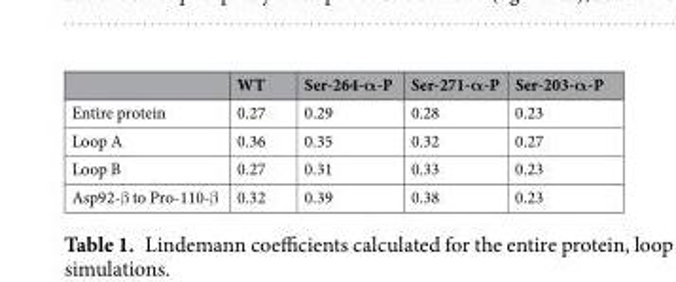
<table><thead><tr><td></td><td>WT</td><td>Ser-264-α-P</td><td>Ser-271-α-P</td><td>Ser-203-α-P</td></tr></thead><tbody><tr><td>Entire protein</td><td>0.27</td><td>0.29</td><td>0.28</td><td>0.23</td></tr><tr><td>Loop A</td><td>0.36</td><td>0.35</td><td>0.32</td><td>0.27</td></tr><tr><td>Loop B</td><td>0.27</td><td>0.31</td><td>0.33</td><td>0.23</td></tr><tr><td>Asp92-β to Pro-110-β</td><td>0.32</td><td>0.39</td><td>0.38</td><td>0.23</td></tr></tbody></table>